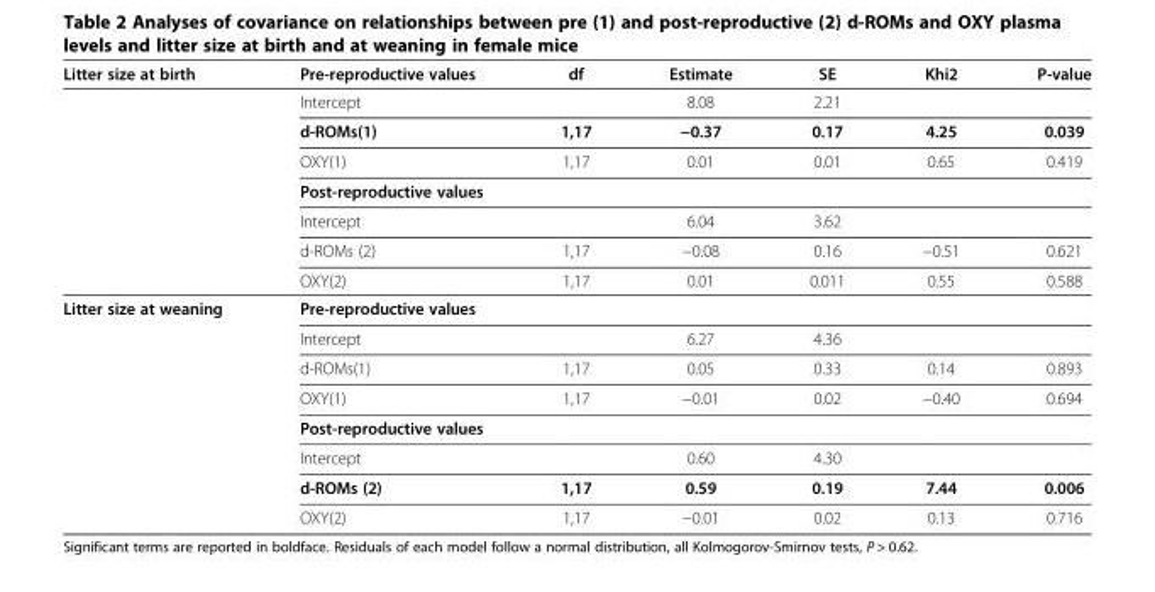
<table><thead><tr><td>Litter size at birth</td><td>Pre-reproductive values</td><td>df</td><td>Estimate</td><td>SE</td><td>Khi2</td><td>P-value</td></tr></thead><tbody><tr><td></td><td>Intercept</td><td></td><td>8.08</td><td>2.21</td><td></td><td></td></tr><tr><td></td><td>d-ROMs(1)</td><td>1,17</td><td>−0.37</td><td>0.17</td><td>4.25</td><td>0.039</td></tr><tr><td></td><td>OXY(1)</td><td>1,17</td><td>0.01</td><td>0.01</td><td>0.65</td><td>0.419</td></tr><tr><td></td><td>Post-reproductive values</td><td></td><td></td><td></td><td></td><td></td></tr><tr><td></td><td>Intercept</td><td></td><td>6.04</td><td>3.62</td><td></td><td></td></tr><tr><td></td><td>d-ROMs (2)</td><td>1,17</td><td>−0.08</td><td>0.16</td><td>−0.51</td><td>0.621</td></tr><tr><td></td><td>OXY(2)</td><td>1,17</td><td>0.01</td><td>0.011</td><td>0.55</td><td>0.588</td></tr><tr><td rowspan="8">Litter size at weaning</td><td>Pre-reproductive values</td><td></td><td></td><td></td><td></td><td></td></tr><tr><td>Intercept</td><td></td><td>6.27</td><td>4.36</td><td></td><td></td></tr><tr><td>d-ROMs(1)</td><td>1,17</td><td>0.05</td><td>0.33</td><td>0.14</td><td>0.893</td></tr><tr><td>OXY(1)</td><td>1,17</td><td>−0.01</td><td>0.02</td><td>−0.40</td><td>0.694</td></tr><tr><td>Post-reproductive values</td><td></td><td></td><td></td><td></td><td></td></tr><tr><td>Intercept</td><td></td><td>0.60</td><td>4.30</td><td></td><td></td></tr><tr><td>d-ROMs (2)</td><td>1,17</td><td>0.59</td><td>0.19</td><td>7.44</td><td>0.006</td></tr><tr><td>OXY(2)</td><td>1,17</td><td>−0.01</td><td>0.02</td><td>0.13</td><td>0.716</td></tr></tbody></table>